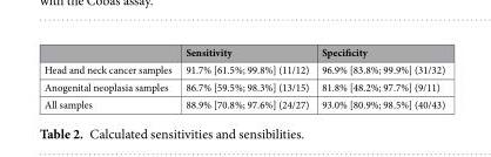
<table><thead><tr><td></td><td>Sensitivity</td><td>Specificity</td></tr></thead><tbody><tr><td>Head and neck cancer samples</td><td>91.7% [61.5%; 99.8%] (11/12)</td><td>96.9% [83.8%; 99.9%] (31/32)</td></tr><tr><td>Anogenital neoplasia samples</td><td>86.7% [59.5%; 98.3%] (13/15)</td><td>81.8% [48.2%; 97.7%] (9/11)</td></tr><tr><td>All samples</td><td>88.9% [70.8%; 97.6%] (24/27)</td><td>93.0% [80.9%; 98.5%] (40/43)</td></tr></tbody></table>